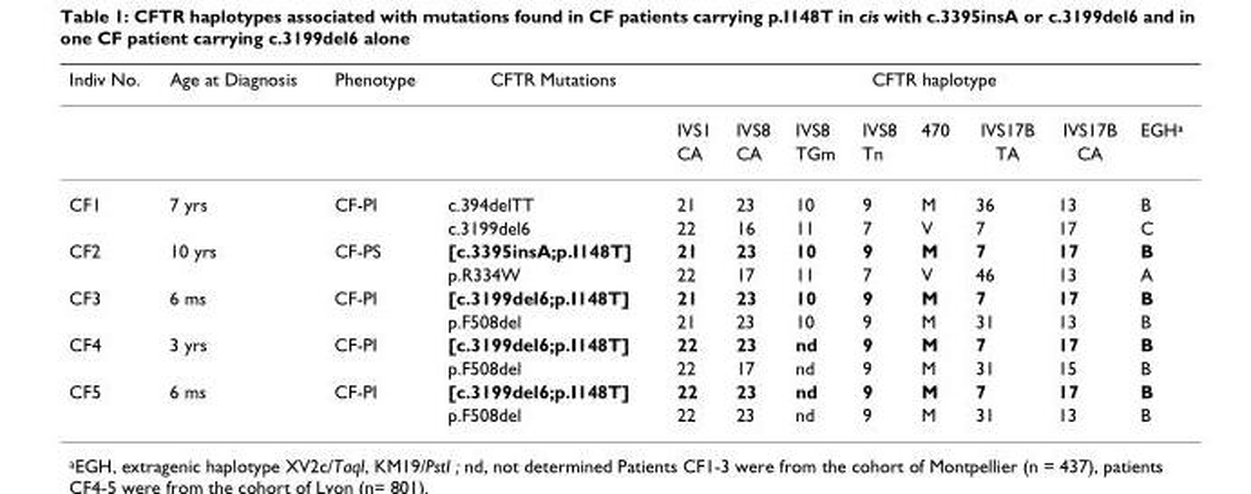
<table><thead><tr><td rowspan="2">Indiv No.</td><td rowspan="2">Age at Diagnosis</td><td rowspan="2">Phenotype</td><td rowspan="2">CFTR Mutations</td><td colspan="8">CFTR haplotype</td></tr><tr><td>IVS1</td><td>IVS8</td><td>IVS8</td><td>IVS8</td><td>470</td><td>IVS17B</td><td>IVS17B</td><td>EGH<sup>a</sup></td></tr></thead><tbody><tr><td></td><td></td><td></td><td></td><td>CA</td><td>CA</td><td>TGm</td><td>Tn</td><td></td><td>TA</td><td>CA</td><td></td></tr><tr><td rowspan="2">CF1</td><td>7 yrs</td><td>CF-PI</td><td>c.394delTT</td><td>21</td><td>23</td><td>10</td><td>9</td><td>M</td><td>36</td><td>13</td><td>B</td></tr><tr><td></td><td></td><td>c.3199del6</td><td>22</td><td>16</td><td>11</td><td>7</td><td>V</td><td>7</td><td>17</td><td>C</td></tr><tr><td rowspan="2">CF2</td><td>10 yrs</td><td>CF-PS</td><td>[c.3395insA;p.I148T]</td><td>21</td><td>23</td><td>10</td><td>9</td><td>M</td><td>7</td><td>17</td><td>B</td></tr><tr><td></td><td></td><td>p.R334W</td><td>22</td><td>17</td><td>11</td><td>7</td><td>V</td><td>46</td><td>13</td><td>A</td></tr><tr><td rowspan="2">CF3</td><td>6 ms</td><td>CF-PI</td><td>[c.3199del6;p.I148T]</td><td>21</td><td>23</td><td>10</td><td>9</td><td>M</td><td>7</td><td>17</td><td>B</td></tr><tr><td></td><td></td><td>p.F508del</td><td>21</td><td>23</td><td>10</td><td>9</td><td>M</td><td>31</td><td>13</td><td>B</td></tr><tr><td rowspan="2">CF4</td><td>3 yrs</td><td>CF-PI</td><td>[c.3199del6;p.I148T]</td><td>22</td><td>23</td><td>nd</td><td>9</td><td>M</td><td>7</td><td>17</td><td>B</td></tr><tr><td></td><td></td><td>p.F508del</td><td>22</td><td>17</td><td>nd</td><td>9</td><td>M</td><td>31</td><td>15</td><td>B</td></tr><tr><td rowspan="2">CF5</td><td>6 ms</td><td>CF-PI</td><td>[c.3199del6;p.I148T]</td><td>22</td><td>23</td><td>nd</td><td>9</td><td>M</td><td>7</td><td>17</td><td>B</td></tr><tr><td></td><td></td><td>p.F508del</td><td>22</td><td>23</td><td>nd</td><td>9</td><td>M</td><td>31</td><td>13</td><td>B</td></tr></tbody></table>